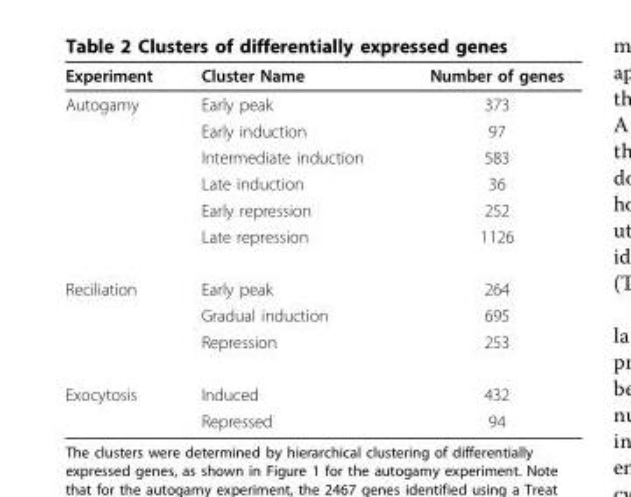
<table><thead><tr><td>Experiment</td><td>Cluster Name</td><td>Number of genes</td></tr></thead><tbody><tr><td rowspan="6">Autogamy</td><td>Early peak</td><td>373</td></tr><tr><td>Early induction</td><td>97</td></tr><tr><td>Intermediate induction</td><td>583</td></tr><tr><td>Late induction</td><td>36</td></tr><tr><td>Early repression</td><td>252</td></tr><tr><td>Late repression</td><td>1126</td></tr><tr><td rowspan="3">Reciliation</td><td>Early peak</td><td>264</td></tr><tr><td>Gradual induction</td><td>695</td></tr><tr><td>Repression</td><td>253</td></tr><tr><td rowspan="2">Exocytosis</td><td>Induced</td><td>432</td></tr><tr><td>Repressed</td><td>94</td></tr></tbody></table>